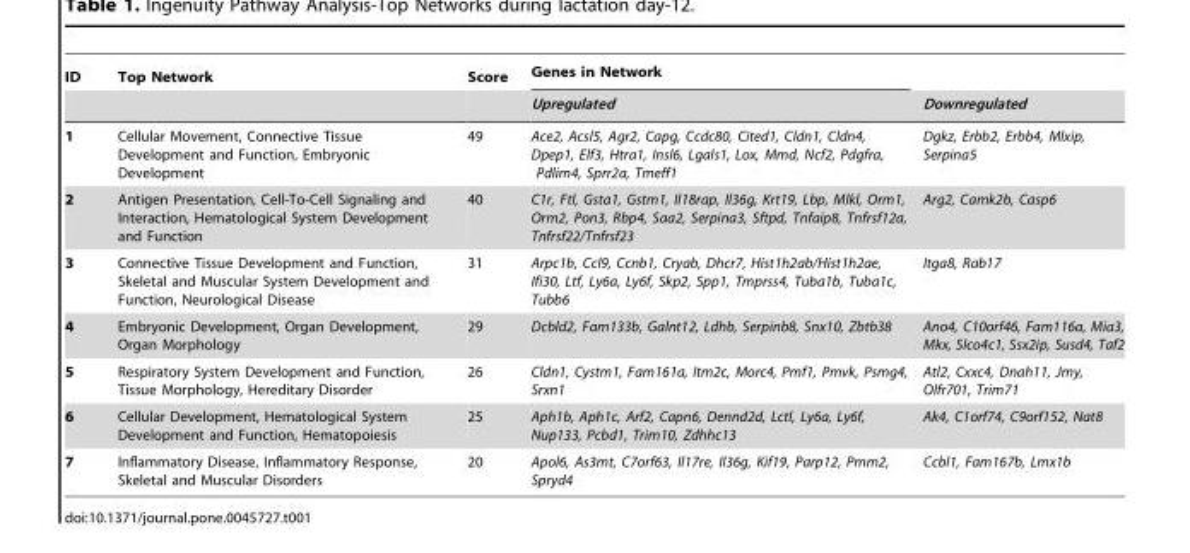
<table><thead><tr><td rowspan="2">ID</td><td rowspan="2">Top Network</td><td rowspan="2">Score</td><td rowspan="2">Genes in Network Upregulated</td><td rowspan="2">Downregulated</td></tr><tr></tr></thead><tbody><tr><td>1</td><td>Cellular Movement, Connective Tissue Development and Function, Embryonic Development</td><td>49</td><td>Ace2, Acsl5, Agr2, Capg, Ccdc80, Cited1, Cldn1, Cldn4, Dpep1, Elf3, Htra1, Insl6, Lgals1, Lox, Mmd, Ncf2, Pdgfra, Pdlim4, Sprr2a, Tmeff1</td><td>Dgkz, Erbb2, Erbb4, Mlxip, Serpina5</td></tr><tr><td>2</td><td>Antigen Presentation, Cell-To-Cell Signaling and Interaction, Hematological System Development and Function</td><td>40</td><td>C1r, Ftl, Gsta1, Gstm1, Il18rap, Il36g, Krt19, Lbp, Mlkl, Orm1, Orm2, Pon3, Rbp4, Saa2, Serpina3, Sftpd, Tnfaip8, Tnfrsf12a, Tnfrsf22/Tnfrsf23</td><td>Arg2, Camk2b, Casp6</td></tr><tr><td>3</td><td>Connective Tissue Development and Function, Skeletal and Muscular System Development and Function, Neurological Disease</td><td>31</td><td>Arpc1b, Ccl9, Ccnb1, Cryab, Dhcr7, Hist1h2ab/Hist1h2ae, Ifi30, Ltf, Ly6a, Ly6f, Skp2, Spp1, Tmprss4, Tuba1b, Tuba1c, Tubb6</td><td>Itga8, Rab17</td></tr><tr><td>4</td><td>Embryonic Development, Organ Development, Organ Morphology</td><td>29</td><td>Dcbld2, Fam133b, Galnt12, Ldhb, Serpinb8, Snx10, Zbtb38</td><td>Ano4, C10orf46, Fam116a, Mia3, Mkx, Slco4c1, Ssx2ip, Susd4, Taf2</td></tr><tr><td>5</td><td>Respiratory System Development and Function, Tissue Morphology, Hereditary Disorder</td><td>26</td><td>Cldn1, Cystm1, Fam161a, Itm2c, Morc4, Pmf1, Pmvk, Psmg4, Srxn1</td><td>Atl2, Cxxc4, Dnah11, Jmy, Olfr701, Trim71</td></tr><tr><td>6</td><td>Cellular Development, Hematological System Development and Function, Hematopoiesis</td><td>25</td><td>Aph1b, Aph1c, Arf2, Capn6, Dennd2d, Lctl, Ly6a, Ly6f, Nup133, Pcbd1, Trim10, Zdhhc13</td><td>Ak4, C1orf74, C9orf152, Nat8</td></tr><tr><td>7</td><td>Inflammatory Disease, Inflammatory Response, Skeletal and Muscular Disorders</td><td>20</td><td>Apol6, As3mt, C7orf63, Il17re, Il36g, Kif19, Parp12, Pmm2, Spryd4</td><td>Ccbl1, Fam167b, Lmx1b</td></tr></tbody></table>